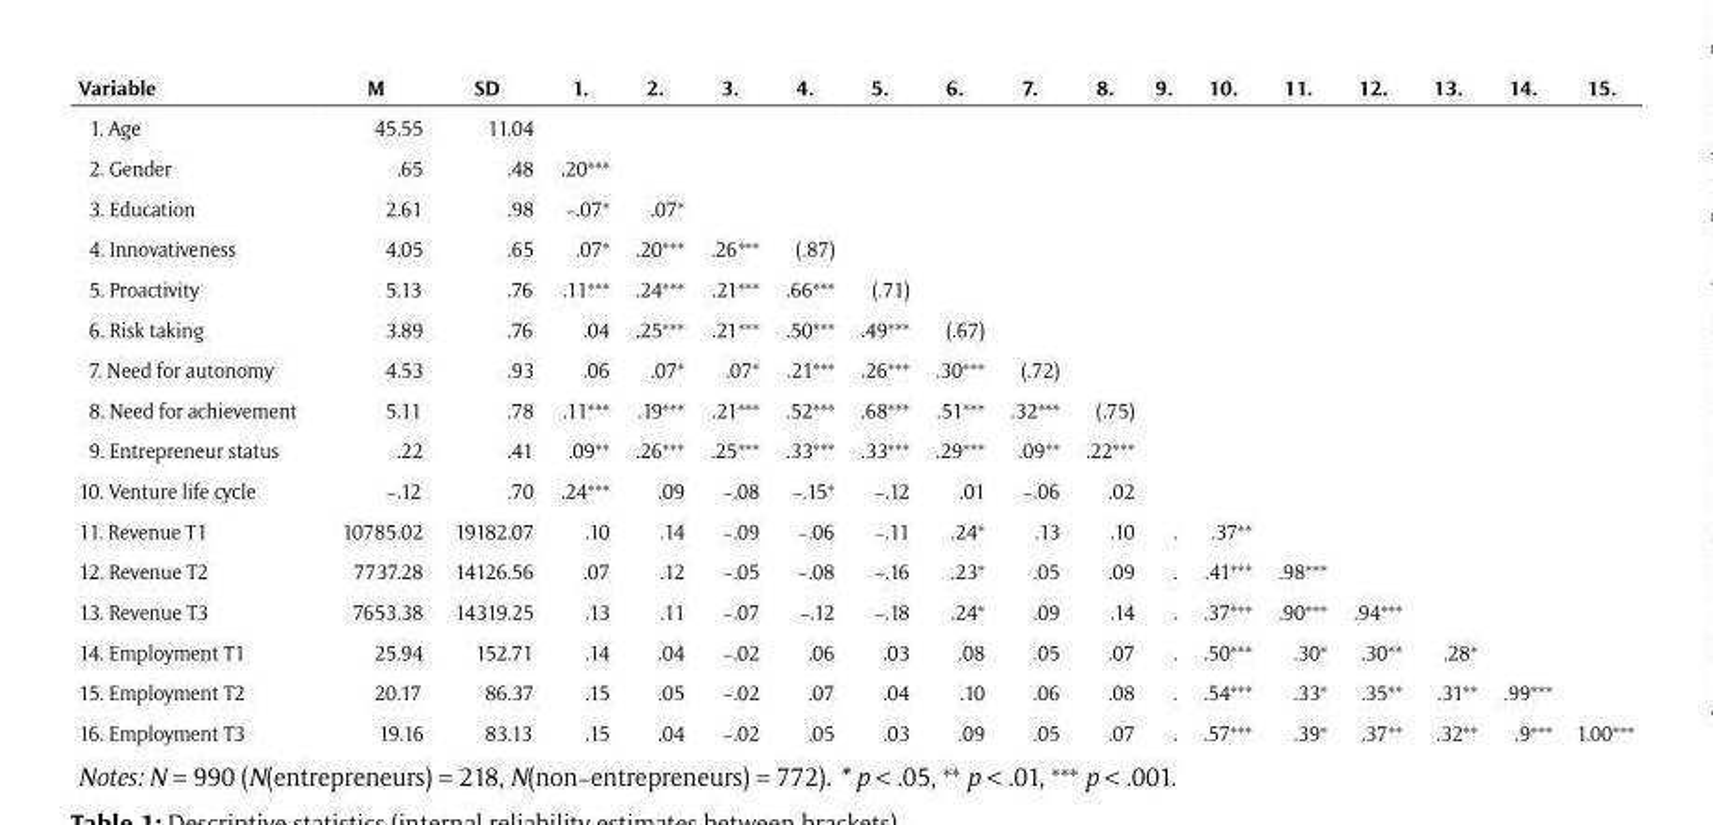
<table><thead><tr><td>Variable</td><td>M</td><td>SD</td><td>1.</td><td>2.</td><td>3.</td><td>4.</td><td>5.</td><td>6.</td><td>7.</td><td>8.</td><td>9.</td><td>10.</td><td>11.</td><td>12.</td><td>13.</td><td>14.</td><td>15.</td></tr></thead><tbody><tr><td>1. Age</td><td>45.55</td><td>11.04</td><td></td><td></td><td></td><td></td><td></td><td></td><td></td><td></td><td></td><td></td><td></td><td></td><td></td><td></td><td></td></tr><tr><td>2. Gender</td><td>.65</td><td>.48</td><td>.20***</td><td></td><td></td><td></td><td></td><td></td><td></td><td></td><td></td><td></td><td></td><td></td><td></td><td></td><td></td></tr><tr><td>3. Education</td><td>2.61</td><td>.98</td><td>−.07*</td><td>.07*</td><td></td><td></td><td></td><td></td><td></td><td></td><td></td><td></td><td></td><td></td><td></td><td></td><td></td></tr><tr><td>4. Innovativeness</td><td>4.05</td><td>.65</td><td>.07*</td><td>.20***</td><td>.26***</td><td>(.87)</td><td></td><td></td><td></td><td></td><td></td><td></td><td></td><td></td><td></td><td></td><td></td></tr><tr><td>5. Proactivity</td><td>5.13</td><td>.76</td><td>.11***</td><td>.24***</td><td>.21***</td><td>.66***</td><td>(.71)</td><td></td><td></td><td></td><td></td><td></td><td></td><td></td><td></td><td></td><td></td></tr><tr><td>6. Risk taking</td><td>3.89</td><td>.76</td><td>.04</td><td>.25***</td><td>.21***</td><td>.50***</td><td>.49***</td><td>(.67)</td><td></td><td></td><td></td><td></td><td></td><td></td><td></td><td></td><td></td></tr><tr><td>7. Need for autonomy</td><td>4.53</td><td>.93</td><td>.06</td><td>.07*</td><td>.07*</td><td>.21***</td><td>.26***</td><td>.30***</td><td>(.72)</td><td></td><td></td><td></td><td></td><td></td><td></td><td></td><td></td></tr><tr><td>8. Need for achievement</td><td>5.11</td><td>.78</td><td>.11***</td><td>.19***</td><td>.21***</td><td>.52***</td><td>.68***</td><td>.51***</td><td>.32***</td><td>(.75)</td><td></td><td></td><td></td><td></td><td></td><td></td><td></td></tr><tr><td>9. Entrepreneur status</td><td>.22</td><td>.41</td><td>.09**</td><td>.26***</td><td>.25***</td><td>.33***</td><td>.33***</td><td>.29***</td><td>.09**</td><td>.22***</td><td></td><td></td><td></td><td></td><td></td><td></td><td></td></tr><tr><td>10. Venture life cycle</td><td>−.12</td><td>.70</td><td>.24***</td><td>.09</td><td>−.08</td><td>−.15*</td><td>−.12</td><td>.01</td><td>−.06</td><td>.02</td><td></td><td></td><td></td><td></td><td></td><td></td><td></td></tr><tr><td>11. Revenue T1</td><td>10785.02</td><td>19182.07</td><td>.10</td><td>.14</td><td>−.09</td><td>−.06</td><td>−.11</td><td>.24*</td><td>.13</td><td>.10</td><td>.</td><td>.37**</td><td></td><td></td><td></td><td></td><td></td></tr><tr><td>12. Revenue T2</td><td>7737.28</td><td>14126.56</td><td>.07</td><td>.12</td><td>−.05</td><td>−.08</td><td>−.16</td><td>.23*</td><td>.05</td><td>.09</td><td>.</td><td>.41***</td><td>.98***</td><td></td><td></td><td></td><td></td></tr><tr><td>13. Revenue T3</td><td>7653.38</td><td>14319.25</td><td>.13</td><td>.11</td><td>−.07</td><td>−.12</td><td>−.18</td><td>.24*</td><td>.09</td><td>.14</td><td>.</td><td>.37***</td><td>.90***</td><td>.94***</td><td></td><td></td><td></td></tr><tr><td>14. Employment T1</td><td>25.94</td><td>152.71</td><td>.14</td><td>.04</td><td>−.02</td><td>.06</td><td>.03</td><td>.08</td><td>.05</td><td>.07</td><td>.</td><td>.50***</td><td>.30*</td><td>.30**</td><td>.28*</td><td></td><td></td></tr><tr><td>15. Employment T2</td><td>20.17</td><td>86.37</td><td>.15</td><td>.05</td><td>−.02</td><td>.07</td><td>.04</td><td>.10</td><td>.06</td><td>.08</td><td>.</td><td>.54***</td><td>.33*</td><td>.35**</td><td>.31**</td><td>.99***</td><td></td></tr><tr><td>16. Employment T3</td><td>19.16</td><td>83.13</td><td>.15</td><td>.04</td><td>−.02</td><td>.05</td><td>.03</td><td>.09</td><td>.05</td><td>.07</td><td>.</td><td>.57***</td><td>.39*</td><td>.37**</td><td>.32**</td><td>.9***</td><td>1.00***</td></tr></tbody></table>